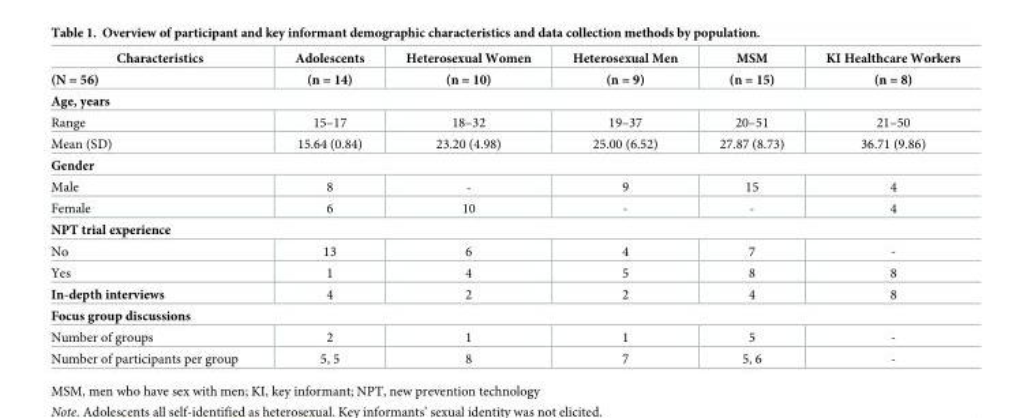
<table><thead><tr><td rowspan="2">Characteristics (N = 56)</td><td rowspan="2">Adolescents (n = 14)</td><td rowspan="2">Heterosexual Women (n = 10)</td><td rowspan="2">Heterosexual Men (n = 9)</td><td rowspan="2">MSM (n = 15)</td><td rowspan="2">KI Healthcare Workers (n = 8)</td></tr><tr></tr></thead><tbody><tr><td colspan="6">Age, years</td></tr><tr><td>Range</td><td>15–17</td><td>18–32</td><td>19–37</td><td>20–51</td><td>21–50</td></tr><tr><td>Mean (SD)</td><td>15.64 (0.84)</td><td>23.20 (4.98)</td><td>25.00 (6.52)</td><td>27.87 (8.73)</td><td>36.71 (9.86)</td></tr><tr><td colspan="6">Gender</td></tr><tr><td>Male</td><td>8</td><td>-</td><td>9</td><td>15</td><td>4</td></tr><tr><td>Female</td><td>6</td><td>10</td><td>-</td><td>-</td><td>4</td></tr><tr><td colspan="6">NPT trial experience</td></tr><tr><td>No</td><td>13</td><td>6</td><td>4</td><td>7</td><td>-</td></tr><tr><td>Yes</td><td>1</td><td>4</td><td>5</td><td>8</td><td>8</td></tr><tr><td>In-depth interviews</td><td>4</td><td>2</td><td>2</td><td>4</td><td>8</td></tr><tr><td colspan="6">Focus group discussions</td></tr><tr><td>Number of groups</td><td>2</td><td>1</td><td>1</td><td>5</td><td>-</td></tr><tr><td>Number of participants per group</td><td>5, 5</td><td>8</td><td>7</td><td>5, 6</td><td>-</td></tr></tbody></table>